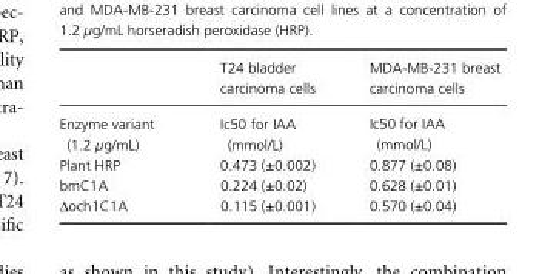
<table><thead><tr><td></td><td>T24 bladder carcinoma cells</td><td>MDA- MB- 231 breast carcinoma cells</td></tr></thead><tbody><tr><td>Enzyme variant (1.2 μg/mL)</td><td>Ic50 for IAA (mmol/L)</td><td>Ic50 for IAA (mmol/L)</td></tr><tr><td>Plant HRP</td><td>0.473 (±0.002)</td><td>0.877 (±0.08)</td></tr><tr><td>bmC1A</td><td>0.224 (±0.02)</td><td>0.628 (±0.01)</td></tr><tr><td>Δoch1C1A</td><td>0.115 (±0.001)</td><td>0.570 (±0.04)</td></tr></tbody></table>